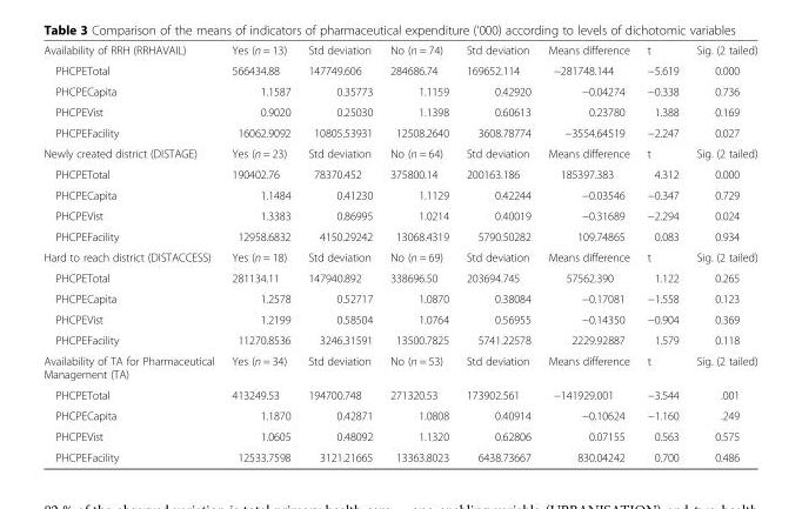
<table><tbody><tr><td>Availability of RRH (RRHAVAIL)</td><td>Yes (n = 13)</td><td>Std deviation</td><td>No (n = 74)</td><td>Std deviation</td><td>Means difference</td><td>t</td><td>Sig. (2 tailed)</td></tr><tr><td>PHCPETotal</td><td>566434.88</td><td>147749.606</td><td>284686.74</td><td>169652.114</td><td>−281748.144</td><td>−5.619</td><td>0.000</td></tr><tr><td>PHCPECapita</td><td>1.1587</td><td>0.35773</td><td>1.1159</td><td>0.42920</td><td>−0.04274</td><td>−0.338</td><td>0.736</td></tr><tr><td>PHCPEVist</td><td>0.9020</td><td>0.25030</td><td>1.1398</td><td>0.60613</td><td>0.23780</td><td>1.388</td><td>0.169</td></tr><tr><td>PHCPEFacility</td><td>16062.9092</td><td>10805.53931</td><td>12508.2640</td><td>3608.78774</td><td>−3554.64519</td><td>−2.247</td><td>0.027</td></tr><tr><td>Newly created district (DISTAGE)</td><td>Yes (n = 23)</td><td>Std deviation</td><td>No (n = 64)</td><td>Std deviation</td><td>Means difference</td><td>t</td><td>Sig. (2 tailed)</td></tr><tr><td>PHCPETotal</td><td>190402.76</td><td>78370.452</td><td>375800.14</td><td>200163.186</td><td>185397.383</td><td>4.312</td><td>0.000</td></tr><tr><td>PHCPECapita</td><td>1.1484</td><td>0.41230</td><td>1.1129</td><td>0.42244</td><td>−0.03546</td><td>−0.347</td><td>0.729</td></tr><tr><td>PHCPEVist</td><td>1.3383</td><td>0.86995</td><td>1.0214</td><td>0.40019</td><td>−0.31689</td><td>−2.294</td><td>0.024</td></tr><tr><td>PHCPEFacility</td><td>12958.6832</td><td>4150.29242</td><td>13068.4319</td><td>5790.50282</td><td>109.74865</td><td>0.083</td><td>0.934</td></tr><tr><td>Hard to reach district (DISTACCESS)</td><td>Yes (n = 18)</td><td>Std deviation</td><td>No (n = 69)</td><td>Std deviation</td><td>Means difference</td><td>t</td><td>Sig. (2 tailed)</td></tr><tr><td>PHCPETotal</td><td>281134.11</td><td>147940.892</td><td>338696.50</td><td>203694.745</td><td>57562.390</td><td>1.122</td><td>0.265</td></tr><tr><td>PHCPECapita</td><td>1.2578</td><td>0.52717</td><td>1.0870</td><td>0.38084</td><td>−0.17081</td><td>−1.558</td><td>0.123</td></tr><tr><td>PHCPEVist</td><td>1.2199</td><td>0.58504</td><td>1.0764</td><td>0.56955</td><td>−0.14350</td><td>−0.904</td><td>0.369</td></tr><tr><td>PHCPEFacility</td><td>11270.8536</td><td>3246.31591</td><td>13500.7825</td><td>5741.22578</td><td>2229.92887</td><td>1.579</td><td>0.118</td></tr><tr><td>Availability of TA for Pharmaceutical Management (TA)</td><td>Yes (n = 34)</td><td>Std deviation</td><td>No (n = 53)</td><td>Std deviation</td><td>Means difference</td><td>t</td><td>Sig. (2 tailed)</td></tr><tr><td>PHCPETotal</td><td>413249.53</td><td>194700.748</td><td>271320.53</td><td>173902.561</td><td>−141929.001</td><td>−3.544</td><td>.001</td></tr><tr><td>PHCPECapita</td><td>1.1870</td><td>0.42871</td><td>1.0808</td><td>0.40914</td><td>−0.10624</td><td>−1.160</td><td>.249</td></tr><tr><td>PHCPEVist</td><td>1.0605</td><td>0.48092</td><td>1.1320</td><td>0.62806</td><td>0.07155</td><td>0.563</td><td>0.575</td></tr><tr><td>PHCPEFacility</td><td>12533.7598</td><td>3121.21665</td><td>13363.8023</td><td>6438.73667</td><td>830.04242</td><td>0.700</td><td>0.486</td></tr></tbody></table>